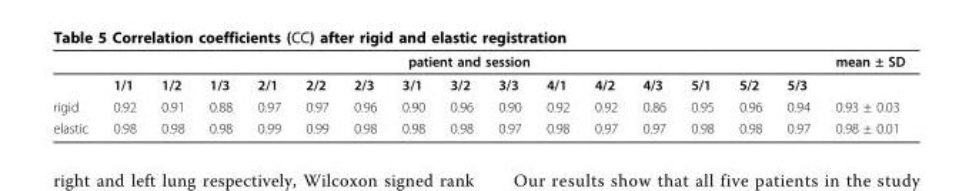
<table><thead><tr><td rowspan="2"></td><td colspan="15">patient and session</td><td rowspan="2">mean ± SD</td></tr><tr><td>1/1</td><td>1/2</td><td>1/3</td><td>2/1</td><td>2/2</td><td>2/3</td><td>3/1</td><td>3/2</td><td>3/3</td><td>4/1</td><td>4/2</td><td>4/3</td><td>5/1</td><td>5/2</td><td>5/3</td></tr></thead><tbody><tr><td>rigid</td><td>0.92</td><td>0.91</td><td>0.88</td><td>0.97</td><td>0.97</td><td>0.96</td><td>0.90</td><td>0.96</td><td>0.90</td><td>0.92</td><td>0.92</td><td>0.86</td><td>0.95</td><td>0.96</td><td>0.94</td><td>0.93 ± 0.03</td></tr><tr><td>elastic</td><td>0.98</td><td>0.98</td><td>0.98</td><td>0.99</td><td>0.99</td><td>0.98</td><td>0.98</td><td>0.98</td><td>0.97</td><td>0.98</td><td>0.97</td><td>0.97</td><td>0.98</td><td>0.98</td><td>0.97</td><td>0.98 ± 0.01</td></tr></tbody></table>